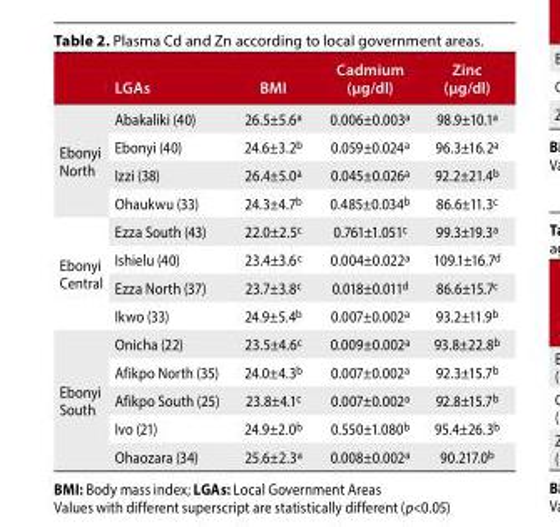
<table><thead><tr><td></td><td>LGAs</td><td>BMI</td><td>Cadmium (µg/dl)</td><td>Zinc (µg/dl)</td></tr></thead><tbody><tr><td rowspan="4">Ebonyi North</td><td>Abakaliki (40)</td><td>26.5±5.6<sup>a</sup></td><td>0.006±0.003<sup>a</sup></td><td>98.9±10.1<sup>a</sup></td></tr><tr><td>Ebonyi (40)</td><td>24.6±3.2<sup>b</sup></td><td>0.059±0.024<sup>a</sup></td><td>96.3±16.2<sup>a</sup></td></tr><tr><td>Izzi (38)</td><td>26.4±5.0<sup>a</sup></td><td>0.045±0.026<sup>a</sup></td><td>92.2±21.4<sup>b</sup></td></tr><tr><td>Ohaukwu (33)</td><td>24.3±4.7<sup>b</sup></td><td>0.485±0.034<sup>b</sup></td><td>86.6±11.3<sup>c</sup></td></tr><tr><td rowspan="4">Ebonyi Central</td><td>Ezza South (43)</td><td>22.0±2.5<sup>c</sup></td><td>0.761±1.051<sup>c</sup></td><td>99.3±19.3<sup>a</sup></td></tr><tr><td>Ishielu (40)</td><td>23.4±3.6<sup>c</sup></td><td>0.004±0.022<sup>a</sup></td><td>109.1±16.7<sup>d</sup></td></tr><tr><td>Ezza North (37)</td><td>23.7±3.8<sup>c</sup></td><td>0.018±0.011<sup>d</sup></td><td>86.6±15.7<sup>c</sup></td></tr><tr><td>Ikwo (33)</td><td>24.9±5.4<sup>b</sup></td><td>0.007±0.002<sup>a</sup></td><td>93.2±11.9<sup>b</sup></td></tr><tr><td rowspan="5">Ebonyi South</td><td>Onicha (22)</td><td>23.5±4.6<sup>c</sup></td><td>0.009±0.002<sup>a</sup></td><td>93.8±22.8<sup>b</sup></td></tr><tr><td>Afikpo North (35)</td><td>24.0±4.3<sup>b</sup></td><td>0.007±0.002<sup>a</sup></td><td>92.3±15.7<sup>b</sup></td></tr><tr><td>Afikpo South (25)</td><td>23.8±4.1<sup>c</sup></td><td>0.007±0.002<sup>a</sup></td><td>92.8±15.7<sup>b</sup></td></tr><tr><td>Ivo (21)</td><td>24.9±2.0<sup>b</sup></td><td>0.550±1.080<sup>b</sup></td><td>95.4±26.3<sup>b</sup></td></tr><tr><td>Ohaozara (34)</td><td>25.6±2.3<sup>a</sup></td><td>0.008±0.002<sup>a</sup></td><td>90.217.0<sup>b</sup></td></tr></tbody></table>